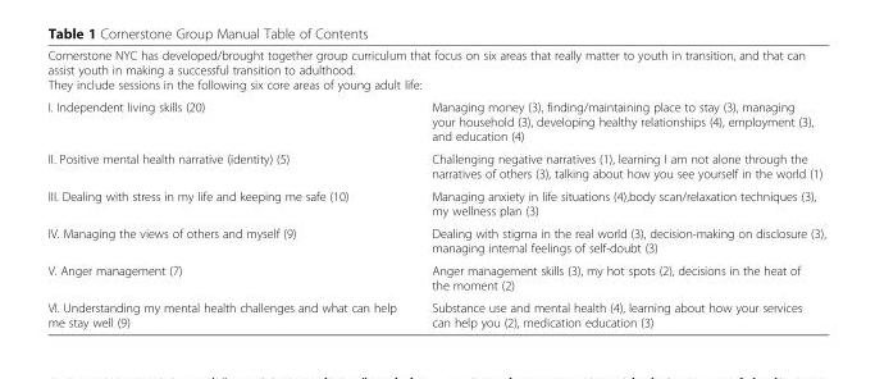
<table><tbody><tr><td colspan="2">Cornerstone NYC has developed/brought together group curriculum that focus on six areas that really matter to youth in transition, and that can assist youth in making a successful transition to adulthood. They include sessions in the following six core areas of young adult life:</td></tr><tr><td>I. Independent living skills (20)</td><td>Managing money (3), finding/maintaining place to stay (3), managing your household (3), developing healthy relationships (4), employment (3), and education (4)</td></tr><tr><td>II. Positive mental health narrative (identity) (5)</td><td>Challenging negative narratives (1), learning I am not alone through the narratives of others (3), talking about how you see yourself in the world (1)</td></tr><tr><td>III. Dealing with stress in my life and keeping me safe (10)</td><td>Managing anxiety in life situations (4),body scan/relaxation techniques (3), my wellness plan (3)</td></tr><tr><td>IV. Managing the views of others and myself (9)</td><td>Dealing with stigma in the real world (3), decision-making on disclosure (3), managing internal feelings of self-doubt (3)</td></tr><tr><td>V. Anger management (7)</td><td>Anger management skills (3), my hot spots (2), decisions in the heat of the moment (2)</td></tr><tr><td>VI. Understanding my mental health challenges and what can help me stay well (9)</td><td>Substance use and mental health (4), learning about how your services can help you (2), medication education (3)</td></tr></tbody></table>